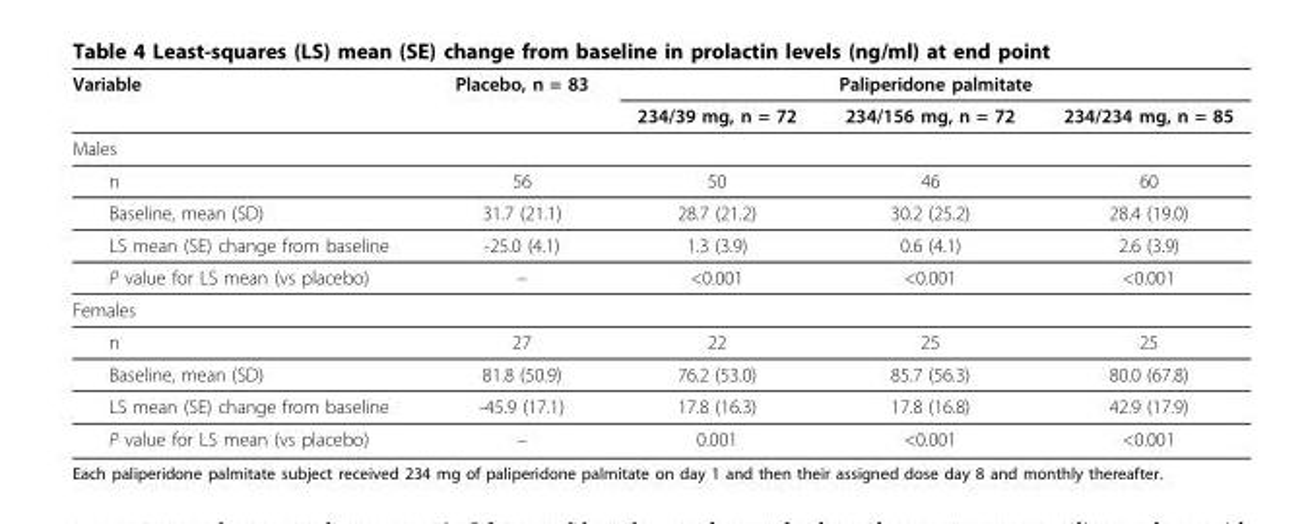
<table><thead><tr><td rowspan="2">Variable</td><td rowspan="2">Placebo, n = 83</td><td colspan="3">Paliperidone palmitate</td></tr><tr><td>234/39 mg, n = 72</td><td>234/156 mg, n = 72</td><td>234/234 mg, n = 85</td></tr></thead><tbody><tr><td colspan="5">Males</td></tr><tr><td>n</td><td>56</td><td>50</td><td>46</td><td>60</td></tr><tr><td>Baseline, mean (SD)</td><td>31.7 (21.1)</td><td>28.7 (21.2)</td><td>30.2 (25.2)</td><td>28.4 (19.0)</td></tr><tr><td>LS mean (SE) change from baseline</td><td>-25.0 (4.1)</td><td>1.3 (3.9)</td><td>0.6 (4.1)</td><td>2.6 (3.9)</td></tr><tr><td>P value for LS mean (vs placebo)</td><td>–</td><td>&lt;0.001</td><td>&lt;0.001</td><td>&lt;0.001</td></tr><tr><td colspan="5">Females</td></tr><tr><td>n</td><td>27</td><td>22</td><td>25</td><td>25</td></tr><tr><td>Baseline, mean (SD)</td><td>81.8 (50.9)</td><td>76.2 (53.0)</td><td>85.7 (56.3)</td><td>80.0 (67.8)</td></tr><tr><td>LS mean (SE) change from baseline</td><td>-45.9 (17.1)</td><td>17.8 (16.3)</td><td>17.8 (16.8)</td><td>42.9 (17.9)</td></tr><tr><td>P value for LS mean (vs placebo)</td><td>–</td><td>0.001</td><td>&lt;0.001</td><td>&lt;0.001</td></tr></tbody></table>